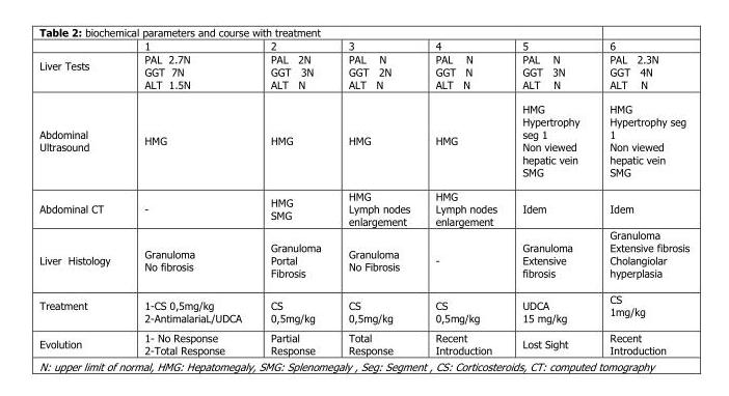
<table><thead><tr><td></td><td>1</td><td>2</td><td>3</td><td>4</td><td>5</td><td>6</td></tr></thead><tbody><tr><td>Liver Tests</td><td>PAL 2.7N GGT 7N ALT 1.5N</td><td>PAL 2N GGT 3N ALT N</td><td>PAL N GGT 2N ALT N</td><td>PAL N GGT N ALT N</td><td>PAL N GGT 3N ALT N</td><td>PAL 2.3N GGT 4N ALT N</td></tr><tr><td>Abdominal Ultrasound</td><td>HMG</td><td>HMG</td><td>HMG</td><td>HMG</td><td>HMG Hypertrophy seg 1 Non viewed hepatic vein SMG</td><td>HMG Hypertrophy seg 1 Non viewed hepatic vein SMG</td></tr><tr><td>Abdominal CT</td><td>-</td><td>HMG SMG</td><td>HMG Lymph nodes enlargement</td><td>HMG Lymph nodes enlargement</td><td>Idem</td><td>Idem</td></tr><tr><td>Liver Histology</td><td>Granuloma No fibrosis</td><td>Granuloma Portal Fibrosis</td><td>Granuloma No Fibrosis</td><td>-</td><td>Granuloma Extensive fibrosis</td><td>Granuloma Extensive fibrosis Cholangiolar hyperplasia</td></tr><tr><td>Treatment</td><td>1-CS 0,5mg/kg 2-AntimalariaL/UDCA</td><td>CS 0,5mg/kg</td><td>CS 0,5mg/kg</td><td>CS 0,5mg/kg</td><td>UDCA 15 mg/kg</td><td>CS 1mg/kg</td></tr><tr><td>Evolution</td><td>1- No Response 2-Total Response</td><td>Partial Response</td><td>Total Response</td><td>Recent Introduction</td><td>Lost Sight</td><td>Recent Introduction</td></tr></tbody></table>